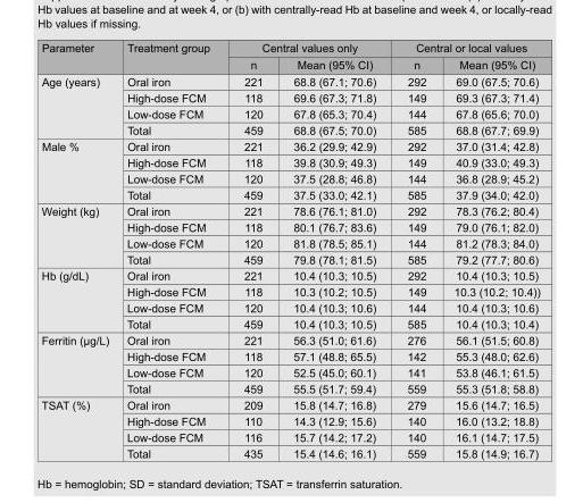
<table><thead><tr><td rowspan="2">Parameter</td><td rowspan="2">Treatment group</td><td colspan="2">Central values only</td><td colspan="2">Central or local values</td></tr><tr><td>n</td><td>Mean (95% CI)</td><td>n</td><td>Mean (95% CI)</td></tr></thead><tbody><tr><td rowspan="4">Age (years)</td><td>Oral iron</td><td>221</td><td>68.8 (67.1; 70.6)</td><td>292</td><td>69.0 (67.5; 70.6)</td></tr><tr><td>High-dose FCM</td><td>118</td><td>69.6 (67.3; 71.8)</td><td>149</td><td>69.3 (67.3; 71.4)</td></tr><tr><td>Low-dose FCM</td><td>120</td><td>67.8 (65.3; 70.4)</td><td>144</td><td>67.8 (65.6; 70.0)</td></tr><tr><td>Total</td><td>459</td><td>68.8 (67.5; 70.0)</td><td>585</td><td>68.8 (67.7; 69.9)</td></tr><tr><td rowspan="4">Male %</td><td>Oral iron</td><td>221</td><td>36.2 (29.9; 42.9)</td><td>292</td><td>37.0 (31.4; 42.8)</td></tr><tr><td>High-dose FCM</td><td>118</td><td>39.8 (30.9; 49.3)</td><td>149</td><td>40.9 (33.0; 49.3)</td></tr><tr><td>Low-dose FCM</td><td>120</td><td>37.5 (28.8; 46.8)</td><td>144</td><td>36.8 (28.9; 45.2)</td></tr><tr><td>Total</td><td>459</td><td>37.5 (33.0; 42.1)</td><td>585</td><td>37.9 (34.0; 42.0)</td></tr><tr><td rowspan="4">Weight (kg)</td><td>Oral iron</td><td>221</td><td>78.6 (76.1; 81.0)</td><td>292</td><td>78.3 (76.2; 80.4)</td></tr><tr><td>High-dose FCM</td><td>118</td><td>80.1 (76.7; 83.6)</td><td>149</td><td>79.0 (76.1; 82.0)</td></tr><tr><td>Low-dose FCM</td><td>120</td><td>81.8 (78.5; 85.1)</td><td>144</td><td>81.2 (78.3; 84.0)</td></tr><tr><td>Total</td><td>459</td><td>79.8 (78.1; 81.5)</td><td>585</td><td>79.2 (77.7; 80.6)</td></tr><tr><td rowspan="4">Hb (g/dL)</td><td>Oral iron</td><td>221</td><td>10.4 (10.3; 10.5)</td><td>292</td><td>10.4 (10.3; 10.5)</td></tr><tr><td>High-dose FCM</td><td>118</td><td>10.3 (10.2; 10.5)</td><td>149</td><td>10.3 (10.2; 10.4))</td></tr><tr><td>Low-dose FCM</td><td>120</td><td>10.4 (10.3; 10.6)</td><td>144</td><td>10.4 (10.3; 10.6)</td></tr><tr><td>Total</td><td>459</td><td>10.4 (10.3; 10.5)</td><td>585</td><td>10.4 (10.3; 10.4)</td></tr><tr><td rowspan="4">Ferritin (μg/L)</td><td>Oral iron</td><td>221</td><td>56.3 (51.0; 61.6)</td><td>276</td><td>56.1 (51.5; 60.8)</td></tr><tr><td>High-dose FCM</td><td>118</td><td>57.1 (48.8; 65.5)</td><td>142</td><td>55.3 (48.0; 62.6)</td></tr><tr><td>Low-dose FCM</td><td>120</td><td>52.5 (45.0; 60.1)</td><td>141</td><td>53.8 (46.1; 61.5)</td></tr><tr><td>Total</td><td>459</td><td>55.5 (51.7; 59.4)</td><td>559</td><td>55.3 (51.8; 58.8)</td></tr><tr><td rowspan="4">TSAT (%)</td><td>Oral iron</td><td>209</td><td>15.8 (14.7; 16.8)</td><td>279</td><td>15.6 (14.7; 16.5)</td></tr><tr><td>High-dose FCM</td><td>110</td><td>14.3 (12.9; 15.6)</td><td>140</td><td>16.0 (13.2; 18.8)</td></tr><tr><td>Low-dose FCM</td><td>116</td><td>15.7 (14.2; 17.2)</td><td>140</td><td>16.1 (14.7; 17.5)</td></tr><tr><td>Total</td><td>435</td><td>15.4 (14.6; 16.1)</td><td>559</td><td>15.8 (14.9; 16.7)</td></tr></tbody></table>